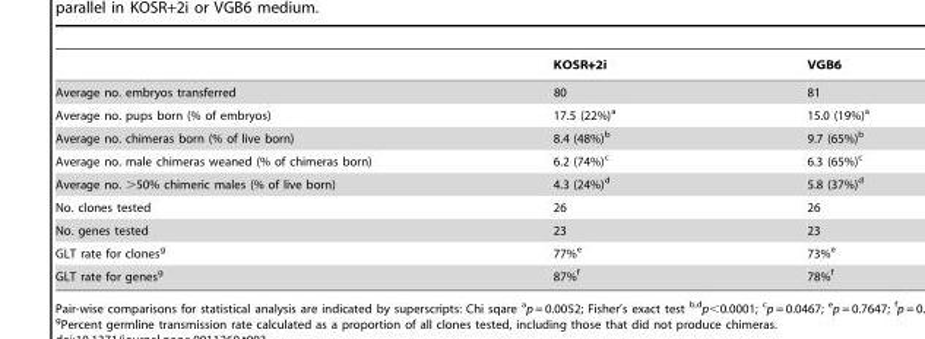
<table><thead><tr><td></td><td>KOSR+2i</td><td>VGB6</td></tr></thead><tbody><tr><td>Average no. embryos transferred</td><td>80</td><td>81</td></tr><tr><td>Average no. pups born (% of embryos)</td><td>17.5 (22%)<sup>a</sup></td><td>15.0 (19%)<sup>a</sup></td></tr><tr><td>Average no. chimeras born (% of live born)</td><td>8.4 (48%)<sup>b</sup></td><td>9.7 (65%)<sup>b</sup></td></tr><tr><td>Average no. male chimeras weaned (% of chimeras born)</td><td>6.2 (74%)<sup>c</sup></td><td>6.3 (65%)<sup>c</sup></td></tr><tr><td>Average no. &gt;50% chimeric males (% of live born)</td><td>4.3 (24%)<sup>d</sup></td><td>5.8 (37%)<sup>d</sup></td></tr><tr><td>No. clones tested</td><td>26</td><td>26</td></tr><tr><td>No. genes tested</td><td>23</td><td>23</td></tr><tr><td>GLT rate for clones<sup>g</sup></td><td>77%<sup>e</sup></td><td>73%<sup>e</sup></td></tr><tr><td>GLT rate for genes<sup>g</sup></td><td>87%<sup>f</sup></td><td>78%<sup>f</sup></td></tr></tbody></table>